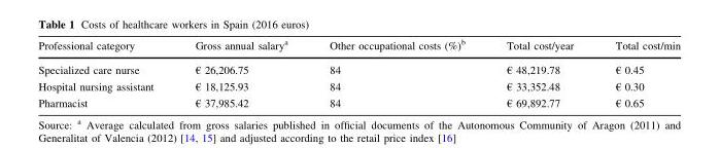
<table><thead><tr><td>Professional category</td><td>Gross annual salary<sup>a</sup></td><td>Other occupational costs (%)<sup>b</sup></td><td>Total cost/year</td><td>Total cost/min</td></tr></thead><tbody><tr><td>Specialized care nurse</td><td>€ 26,206.75</td><td>84</td><td>€ 48,219.78</td><td>€ 0.45</td></tr><tr><td>Hospital nursing assistant</td><td>€ 18,125.93</td><td>84</td><td>€ 33,352.48</td><td>€ 0.30</td></tr><tr><td>Pharmacist</td><td>€ 37,985.42</td><td>84</td><td>€ 69,892.77</td><td>€ 0.65</td></tr></tbody></table>